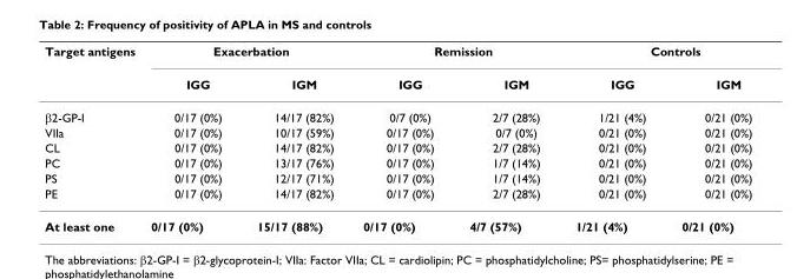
<table><thead><tr><td rowspan="2">Target antigens</td><td colspan="2">Exacerbation</td><td colspan="2">Remission</td><td colspan="2">Controls</td></tr><tr><td>IGG</td><td>IGM</td><td>IGG</td><td>IGM</td><td>IGG</td><td>IGM</td></tr></thead><tbody><tr><td>β2-GP-I</td><td>0/17 (0%)</td><td>14/17 (82%)</td><td>0/7 (0%)</td><td>2/7 (28%)</td><td>1/21 (4%)</td><td>0/21 (0%)</td></tr><tr><td>VIIa</td><td>0/17 (0%)</td><td>10/17 (59%)</td><td>0/17 (0%)</td><td>0/7 (0%)</td><td>0/21 (0%)</td><td>0/21 (0%)</td></tr><tr><td>CL</td><td>0/17 (0%)</td><td>14/17 (82%)</td><td>0/17 (0%)</td><td>2/7 (28%)</td><td>0/21 (0%)</td><td>0/21 (0%)</td></tr><tr><td>PC</td><td>0/17 (0%)</td><td>13/17 (76%)</td><td>0/17 (0%)</td><td>1/7 (14%)</td><td>0/21 (0%)</td><td>0/21 (0%)</td></tr><tr><td>PS</td><td>0/17 (0%)</td><td>12/17 (71%)</td><td>0/17 (0%)</td><td>1/7 (14%)</td><td>0/21 (0%)</td><td>0/21 (0%)</td></tr><tr><td>PE</td><td>0/17 (0%)</td><td>14/17 (82%)</td><td>0/17 (0%)</td><td>2/7 (28%)</td><td>0/21 (0%)</td><td>0/21 (0%)</td></tr><tr><td>At least one</td><td>0/17 (0%)</td><td>15/17 (88%)</td><td>0/17 (0%)</td><td>4/7 (57%)</td><td>1/21 (4%)</td><td>0/21 (0%)</td></tr></tbody></table>